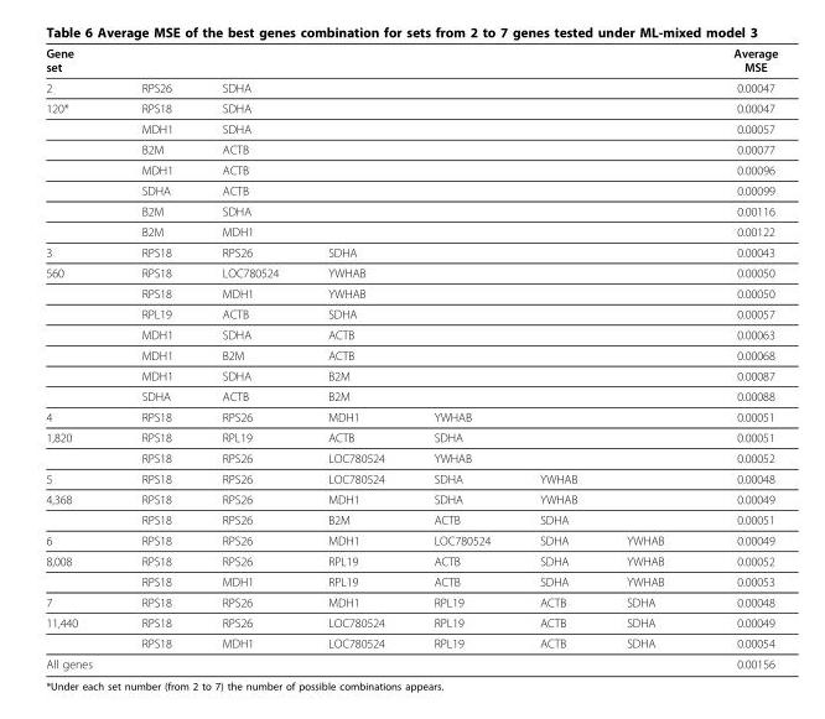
<table><thead><tr><td>Gene set</td><td></td><td></td><td></td><td></td><td></td><td></td><td>Average MSE</td></tr></thead><tbody><tr><td>2</td><td>RPS26</td><td>SDHA</td><td></td><td></td><td></td><td></td><td>0.00047</td></tr><tr><td rowspan="7">120*</td><td>RPS18</td><td>SDHA</td><td></td><td></td><td></td><td></td><td>0.00047</td></tr><tr><td>MDH1</td><td>SDHA</td><td></td><td></td><td></td><td></td><td>0.00057</td></tr><tr><td>B2M</td><td>ACTB</td><td></td><td></td><td></td><td></td><td>0.00077</td></tr><tr><td>MDH1</td><td>ACTB</td><td></td><td></td><td></td><td></td><td>0.00096</td></tr><tr><td>SDHA</td><td>ACTB</td><td></td><td></td><td></td><td></td><td>0.00099</td></tr><tr><td>B2M</td><td>SDHA</td><td></td><td></td><td></td><td></td><td>0.00116</td></tr><tr><td>B2M</td><td>MDH1</td><td></td><td></td><td></td><td></td><td>0.00122</td></tr><tr><td>3</td><td>RPS18</td><td>RPS26</td><td>SDHA</td><td></td><td></td><td></td><td>0.00043</td></tr><tr><td rowspan="7">560</td><td>RPS18</td><td>LOC780524</td><td>YWHAB</td><td></td><td></td><td></td><td>0.00050</td></tr><tr><td>RPS18</td><td>MDH1</td><td>YWHAB</td><td></td><td></td><td></td><td>0.00050</td></tr><tr><td>RPL19</td><td>ACTB</td><td>SDHA</td><td></td><td></td><td></td><td>0.00057</td></tr><tr><td>MDH1</td><td>SDHA</td><td>ACTB</td><td></td><td></td><td></td><td>0.00063</td></tr><tr><td>MDH1</td><td>B2M</td><td>ACTB</td><td></td><td></td><td></td><td>0.00068</td></tr><tr><td>MDH1</td><td>SDHA</td><td>B2M</td><td></td><td></td><td></td><td>0.00087</td></tr><tr><td>SDHA</td><td>ACTB</td><td>B2M</td><td></td><td></td><td></td><td>0.00088</td></tr><tr><td>4</td><td>RPS18</td><td>RPS26</td><td>MDH1</td><td>YWHAB</td><td></td><td></td><td>0.00051</td></tr><tr><td rowspan="2">1,820</td><td>RPS18</td><td>RPL19</td><td>ACTB</td><td>SDHA</td><td></td><td></td><td>0.00051</td></tr><tr><td>RPS18</td><td>RPS26</td><td>LOC780524</td><td>YWHAB</td><td></td><td></td><td>0.00052</td></tr><tr><td>5</td><td>RPS18</td><td>RPS26</td><td>LOC780524</td><td>SDHA</td><td>YWHAB</td><td></td><td>0.00048</td></tr><tr><td rowspan="2">4,368</td><td>RPS18</td><td>RPS26</td><td>MDH1</td><td>SDHA</td><td>YWHAB</td><td></td><td>0.00049</td></tr><tr><td>RPS18</td><td>RPS26</td><td>B2M</td><td>ACTB</td><td>SDHA</td><td></td><td>0.00051</td></tr><tr><td>6</td><td>RPS18</td><td>RPS26</td><td>MDH1</td><td>LOC780524</td><td>SDHA</td><td>YWHAB</td><td>0.00049</td></tr><tr><td rowspan="2">8,008</td><td>RPS18</td><td>RPS26</td><td>RPL19</td><td>ACTB</td><td>SDHA</td><td>YWHAB</td><td>0.00052</td></tr><tr><td>RPS18</td><td>MDH1</td><td>RPL19</td><td>ACTB</td><td>SDHA</td><td>YWHAB</td><td>0.00053</td></tr><tr><td>7</td><td>RPS18</td><td>RPS26</td><td>MDH1</td><td>RPL19</td><td>ACTB</td><td>SDHA</td><td>0.00048</td></tr><tr><td rowspan="2">11,440</td><td>RPS18</td><td>RPS26</td><td>LOC780524</td><td>RPL19</td><td>ACTB</td><td>SDHA</td><td>0.00049</td></tr><tr><td>RPS18</td><td>MDH1</td><td>LOC780524</td><td>RPL19</td><td>ACTB</td><td>SDHA</td><td>0.00054</td></tr><tr><td>All genes</td><td></td><td></td><td></td><td></td><td></td><td></td><td>0.00156</td></tr></tbody></table>